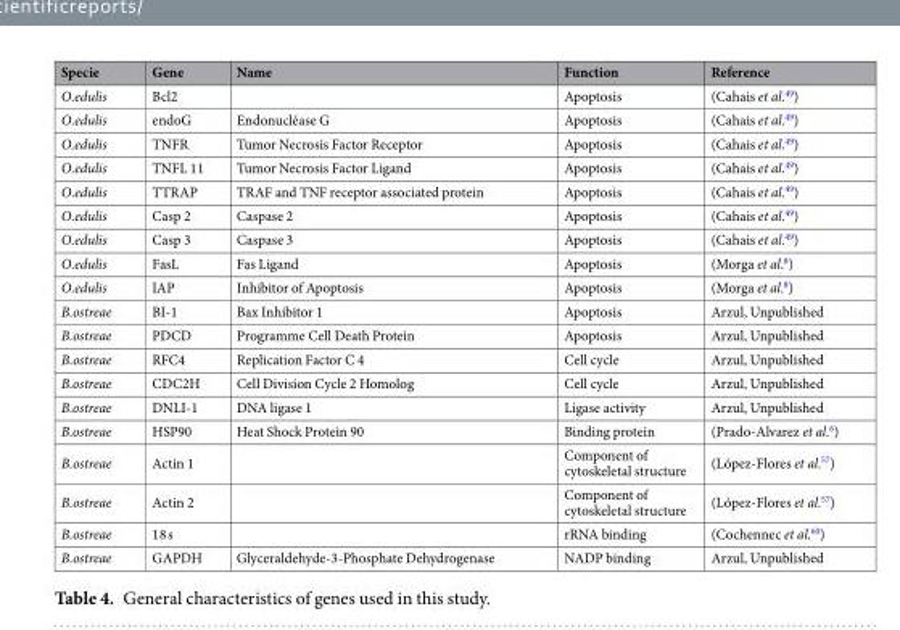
<table><thead><tr><td>Specie</td><td>Gene</td><td>Name</td><td>Function</td><td>Reference</td></tr></thead><tbody><tr><td>O.edulis</td><td>Bcl2</td><td></td><td>Apoptosis</td><td>(Cahais et al.<sup>49</sup>)</td></tr><tr><td>O.edulis</td><td>endoG</td><td>Endonucléase G</td><td>Apoptosis</td><td>(Cahais et al.<sup>49</sup>)</td></tr><tr><td>O.edulis</td><td>TNFR</td><td>Tumor Necrosis Factor Receptor</td><td>Apoptosis</td><td>(Cahais et al.<sup>49</sup>)</td></tr><tr><td>O.edulis</td><td>TNFL 11</td><td>Tumor Necrosis Factor Ligand</td><td>Apoptosis</td><td>(Cahais et al.<sup>49</sup>)</td></tr><tr><td>O.edulis</td><td>TTRAP</td><td>TRAF and TNF receptor associated protein</td><td>Apoptosis</td><td>(Cahais et al.<sup>49</sup>)</td></tr><tr><td>O.edulis</td><td>Casp 2</td><td>Caspase 2</td><td>Apoptosis</td><td>(Cahais et al.<sup>49</sup>)</td></tr><tr><td>O.edulis</td><td>Casp 3</td><td>Caspase 3</td><td>Apoptosis</td><td>(Cahais et al.<sup>49</sup>)</td></tr><tr><td>O.edulis</td><td>FasL</td><td>Fas Ligand</td><td>Apoptosis</td><td>(Morga et al.<sup>8</sup>)</td></tr><tr><td>O.edulis</td><td>IAP</td><td>Inhibitor of Apoptosis</td><td>Apoptosis</td><td>(Morga et al.<sup>8</sup>)</td></tr><tr><td>B.ostreae</td><td>BI-1</td><td>Bax Inhibitor 1</td><td>Apoptosis</td><td>Arzul, Unpublished</td></tr><tr><td>B.ostreae</td><td>PDCD</td><td>Programme Cell Death Protein</td><td>Apoptosis</td><td>Arzul, Unpublished</td></tr><tr><td>B.ostreae</td><td>RFC4</td><td>Replication Factor C 4</td><td>Cell cycle</td><td>Arzul, Unpublished</td></tr><tr><td>B.ostreae</td><td>CDC2H</td><td>Cell Division Cycle 2 Homolog</td><td>Cell cycle</td><td>Arzul, Unpublished</td></tr><tr><td>B.ostreae</td><td>DNLI-1</td><td>DNA ligase 1</td><td>Ligase activity</td><td>Arzul, Unpublished</td></tr><tr><td>B.ostreae</td><td>HSP90</td><td>Heat Shock Protein 90</td><td>Binding protein</td><td>(Prado-Alvarez et al.<sup>6</sup>)</td></tr><tr><td>B.ostreae</td><td>Actin 1</td><td></td><td>Component of cytoskeletal structure</td><td>(López-Flores et al.<sup>57</sup>)</td></tr><tr><td>B.ostreae</td><td>Actin 2</td><td></td><td>Component of cytoskeletal structure</td><td>(López-Flores et al.<sup>57</sup>)</td></tr><tr><td>B.ostreae</td><td>18 s</td><td></td><td>rRNA binding</td><td>(Cochennec et al.<sup>60</sup>)</td></tr><tr><td>B.ostreae</td><td>GAPDH</td><td>Glyceraldehyde-3-Phosphate Dehydrogenase</td><td>NADP binding</td><td>Arzul, Unpublished</td></tr></tbody></table>